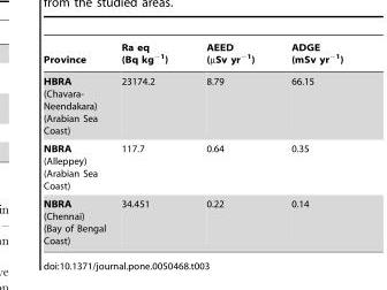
<table><thead><tr><td>Province</td><td>Ra eq (Bq kg<sup>−1</sup>)</td><td>AEED (µSv yr<sup>−1</sup>)</td><td>ADGE (mSv yr<sup>−1</sup>)</td></tr></thead><tbody><tr><td>HBRA (Chavara- Neendakara) (Arabian Sea Coast)</td><td>23174.2</td><td>8.79</td><td>66.15</td></tr><tr><td>NBRA (Alleppey) (Arabian Sea Coast)</td><td>117.7</td><td>0.64</td><td>0.35</td></tr><tr><td>NBRA (Chennai) (Bay of Bengal Coast)</td><td>34.451</td><td>0.22</td><td>0.14</td></tr></tbody></table>